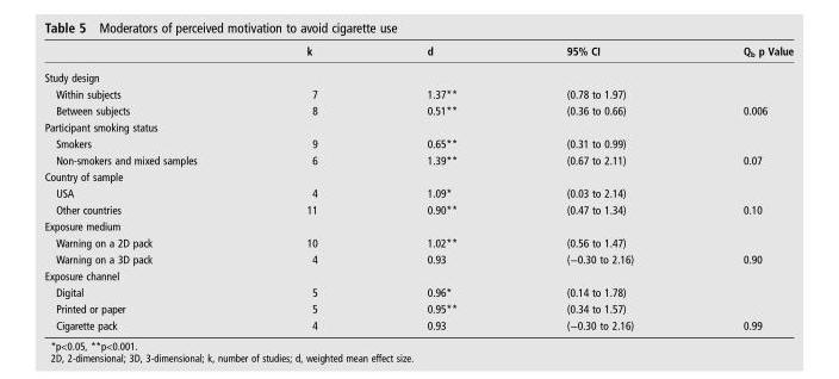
<table><thead><tr><td></td><td>k</td><td>d</td><td>95% CI</td><td>Q<sub>b</sub> p Value</td></tr></thead><tbody><tr><td colspan="5">Study design</td></tr><tr><td>Within subjects</td><td>7</td><td>1.37**</td><td>(0.78 to 1.97)</td><td></td></tr><tr><td>Between subjects</td><td>8</td><td>0.51**</td><td>(0.36 to 0.66)</td><td>0.006</td></tr><tr><td colspan="5">Participant smoking status</td></tr><tr><td>Smokers</td><td>9</td><td>0.65**</td><td>(0.31 to 0.99)</td><td></td></tr><tr><td>Non-smokers and mixed samples</td><td>6</td><td>1.39**</td><td>(0.67 to 2.11)</td><td>0.07</td></tr><tr><td colspan="5">Country of sample</td></tr><tr><td>USA</td><td>4</td><td>1.09*</td><td>(0.03 to 2.14)</td><td></td></tr><tr><td>Other countries</td><td>11</td><td>0.90**</td><td>(0.47 to 1.34)</td><td>0.10</td></tr><tr><td colspan="5">Exposure medium</td></tr><tr><td>Warning on a 2D pack</td><td>10</td><td>1.02**</td><td>(0.56 to 1.47)</td><td></td></tr><tr><td>Warning on a 3D pack</td><td>4</td><td>0.93</td><td>(−0.30 to 2.16)</td><td>0.90</td></tr><tr><td colspan="5">Exposure channel</td></tr><tr><td>Digital</td><td>5</td><td>0.96*</td><td>(0.14 to 1.78)</td><td></td></tr><tr><td>Printed or paper</td><td>5</td><td>0.95**</td><td>(0.34 to 1.57)</td><td></td></tr><tr><td>Cigarette pack</td><td>4</td><td>0.93</td><td>(−0.30 to 2.16)</td><td>0.99</td></tr></tbody></table>